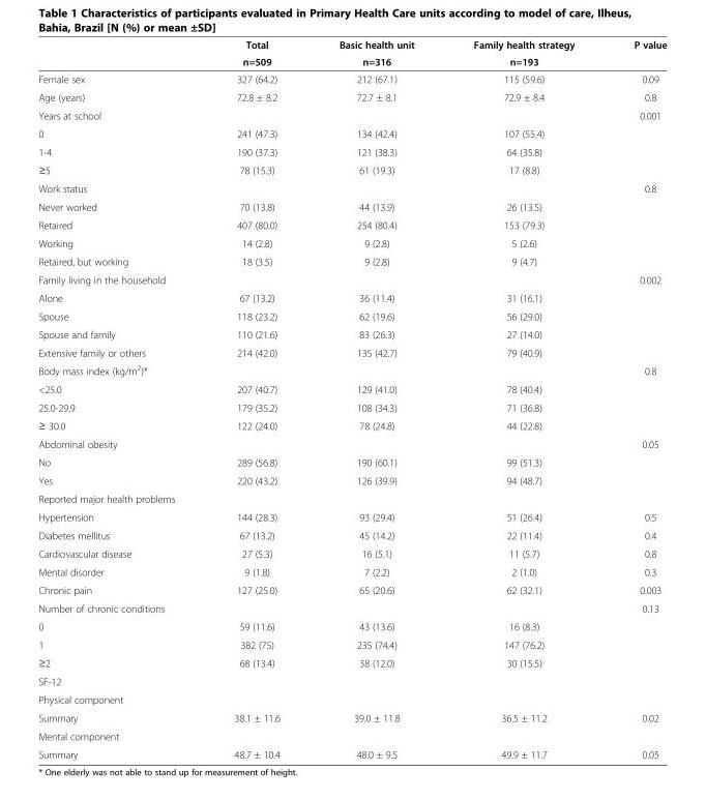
<table><thead><tr><td rowspan="2"></td><td rowspan="2">Total n=509</td><td rowspan="2">Basic health unit n=316</td><td rowspan="2">Family health strategy n=193</td><td rowspan="2">P value</td></tr><tr></tr></thead><tbody><tr><td>Female sex</td><td>327 (64.2)</td><td>212 (67.1)</td><td>115 (59.6)</td><td>0.09</td></tr><tr><td>Age (years)</td><td>72.8 ± 8.2</td><td>72.7 ± 8.1</td><td>72.9 ± 8.4</td><td>0.8</td></tr><tr><td>Years at school</td><td></td><td></td><td></td><td>0.001</td></tr><tr><td>0</td><td>241 (47.3)</td><td>134 (42.4)</td><td>107 (55.4)</td><td></td></tr><tr><td>1-4</td><td>190 (37.3)</td><td>121 (38.3)</td><td>64 (35.8)</td><td></td></tr><tr><td>≥5</td><td>78 (15.3)</td><td>61 (19.3)</td><td>17 (8.8)</td><td></td></tr><tr><td>Work status</td><td></td><td></td><td></td><td>0.8</td></tr><tr><td>Never worked</td><td>70 (13.8)</td><td>44 (13.9)</td><td>26 (13.5)</td><td></td></tr><tr><td>Retaired</td><td>407 (80.0)</td><td>254 (80.4)</td><td>153 (79.3)</td><td></td></tr><tr><td>Working</td><td>14 (2.8)</td><td>9 (2.8)</td><td>5 (2.6)</td><td></td></tr><tr><td>Retaired, but working</td><td>18 (3.5)</td><td>9 (2.8)</td><td>9 (4.7)</td><td></td></tr><tr><td>Family living in the household</td><td></td><td></td><td></td><td>0.002</td></tr><tr><td>Alone</td><td>67 (13.2)</td><td>36 (11.4)</td><td>31 (16.1)</td><td></td></tr><tr><td>Spouse</td><td>118 (23.2)</td><td>62 (19.6)</td><td>56 (29.0)</td><td></td></tr><tr><td>Spouse and family</td><td>110 (21.6)</td><td>83 (26.3)</td><td>27 (14.0)</td><td></td></tr><tr><td>Extensive family or others</td><td>214 (42.0)</td><td>135 (42.7)</td><td>79 (40.9)</td><td></td></tr><tr><td>Body mass index (kg/m<sup>2</sup>)*</td><td></td><td></td><td></td><td>0.8</td></tr><tr><td>&lt;25.0</td><td>207 (40.7)</td><td>129 (41.0)</td><td>78 (40.4)</td><td></td></tr><tr><td>25.0-29.9</td><td>179 (35.2)</td><td>108 (34.3)</td><td>71 (36.8)</td><td></td></tr><tr><td>≥ 30.0</td><td>122 (24.0)</td><td>78 (24.8)</td><td>44 (22.8)</td><td></td></tr><tr><td>Abdominal obesity</td><td></td><td></td><td></td><td>0.05</td></tr><tr><td>No</td><td>289 (56.8)</td><td>190 (60.1)</td><td>99 (51.3)</td><td></td></tr><tr><td>Yes</td><td>220 (43.2)</td><td>126 (39.9)</td><td>94 (48.7)</td><td></td></tr><tr><td colspan="5">Reported major health problems</td></tr><tr><td>Hypertension</td><td>144 (28.3)</td><td>93 (29.4)</td><td>51 (26.4)</td><td>0.5</td></tr><tr><td>Diabetes mellitus</td><td>67 (13.2)</td><td>45 (14.2)</td><td>22 (11.4)</td><td>0.4</td></tr><tr><td>Cardiovascular disease</td><td>27 (5.3)</td><td>16 (5.1)</td><td>11 (5.7)</td><td>0.8</td></tr><tr><td>Mental disorder</td><td>9 (1.8)</td><td>7 (2.2)</td><td>2 (1.0)</td><td>0.3</td></tr><tr><td>Chronic pain</td><td>127 (25.0)</td><td>65 (20.6)</td><td>62 (32.1)</td><td>0.003</td></tr><tr><td>Number of chronic conditions</td><td></td><td></td><td></td><td>0.13</td></tr><tr><td>0</td><td>59 (11.6)</td><td>43 (13.6)</td><td>16 (8.3)</td><td></td></tr><tr><td>1</td><td>382 (75)</td><td>235 (74.4)</td><td>147 (76.2)</td><td></td></tr><tr><td>≥2</td><td>68 (13.4)</td><td>38 (12.0)</td><td>30 (15.5)</td><td></td></tr><tr><td colspan="5">SF-12</td></tr><tr><td colspan="5">Physical component</td></tr><tr><td>Summary</td><td>38.1 ± 11.6</td><td>39.0 ± 11.8</td><td>36.5 ± 11.2</td><td>0.02</td></tr><tr><td colspan="5">Mental component</td></tr><tr><td>Summary</td><td>48.7 ± 10.4</td><td>48.0 ± 9.5</td><td>49.9 ± 11.7</td><td>0.05</td></tr></tbody></table>